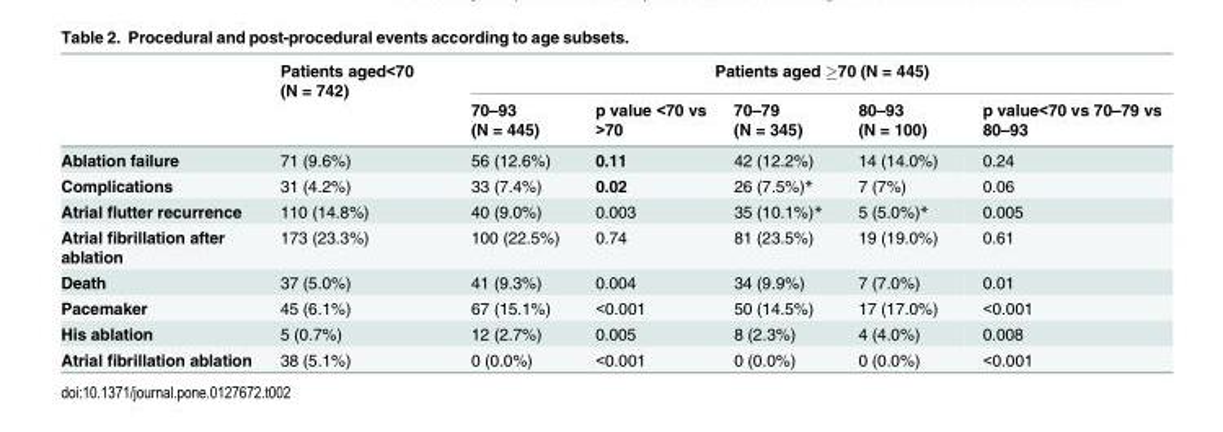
<table><thead><tr><td rowspan="2"></td><td rowspan="2">Patients aged&lt;70 (N = 742)</td><td colspan="5">Patients aged ≥70 (N = 445)</td></tr><tr><td>70–93 (N = 445)</td><td>p value &lt;70 vs &gt;70</td><td>70–79 (N = 345)</td><td>80–93 (N = 100)</td><td>p value&lt;70 vs 70–79 vs 80–93</td></tr></thead><tbody><tr><td>Ablation failure</td><td>71 (9.6%)</td><td>56 (12.6%)</td><td>0.11</td><td>42 (12.2%)</td><td>14 (14.0%)</td><td>0.24</td></tr><tr><td>Complications</td><td>31 (4.2%)</td><td>33 (7.4%)</td><td>0.02</td><td>26 (7.5%)*</td><td>7 (7%)</td><td>0.06</td></tr><tr><td>Atrial flutter recurrence</td><td>110 (14.8%)</td><td>40 (9.0%)</td><td>0.003</td><td>35 (10.1%)*</td><td>5 (5.0%)*</td><td>0.005</td></tr><tr><td>Atrial fibrillation after ablation</td><td>173 (23.3%)</td><td>100 (22.5%)</td><td>0.74</td><td>81 (23.5%)</td><td>19 (19.0%)</td><td>0.61</td></tr><tr><td>Death</td><td>37 (5.0%)</td><td>41 (9.3%)</td><td>0.004</td><td>34 (9.9%)</td><td>7 (7.0%)</td><td>0.01</td></tr><tr><td>Pacemaker</td><td>45 (6.1%)</td><td>67 (15.1%)</td><td>&lt;0.001</td><td>50 (14.5%)</td><td>17 (17.0%)</td><td>&lt;0.001</td></tr><tr><td>His ablation</td><td>5 (0.7%)</td><td>12 (2.7%)</td><td>0.005</td><td>8 (2.3%)</td><td>4 (4.0%)</td><td>0.008</td></tr><tr><td>Atrial fibrillation ablation</td><td>38 (5.1%)</td><td>0 (0.0%)</td><td>&lt;0.001</td><td>0 (0.0%)</td><td>0 (0.0%)</td><td>&lt;0.001</td></tr></tbody></table>